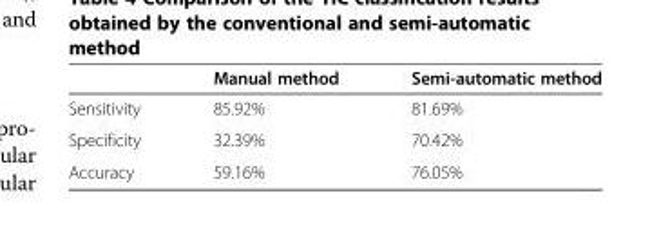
<table><thead><tr><td></td><td>Manual method</td><td>Semi-automatic method</td></tr></thead><tbody><tr><td>Sensitivity</td><td>85.92%</td><td>81.69%</td></tr><tr><td>Specificity</td><td>32.39%</td><td>70.42%</td></tr><tr><td>Accuracy</td><td>59.16%</td><td>76.05%</td></tr></tbody></table>